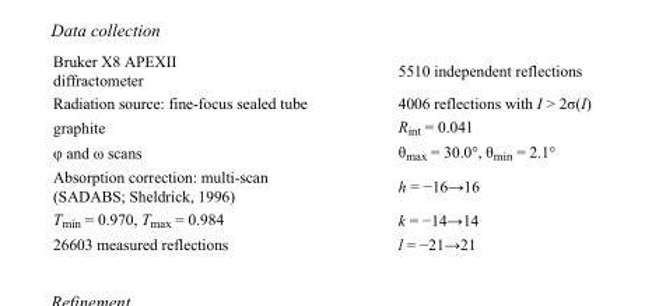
<table><tbody><tr><td>Bruker X8 APEXII diffractometer</td><td>5510 independent reflections</td></tr><tr><td>Radiation source: fine-focus sealed tube</td><td>4006 reflections with I &gt; 2σ(I)</td></tr><tr><td>graphite</td><td>R<sub>int</sub> = 0.041</td></tr><tr><td>φ and ω scans</td><td>θ<sub>max</sub> = 30.0°, θ<sub>min</sub> = 2.1°</td></tr><tr><td>Absorption correction: multi-scan (SADABS; Sheldrick, 1996)</td><td>h = −16→16</td></tr><tr><td>T<sub>min</sub> = 0.970, T<sub>max</sub> = 0.984</td><td>k = −14→14</td></tr><tr><td>26603 measured reflections</td><td>l = −21→21</td></tr></tbody></table>